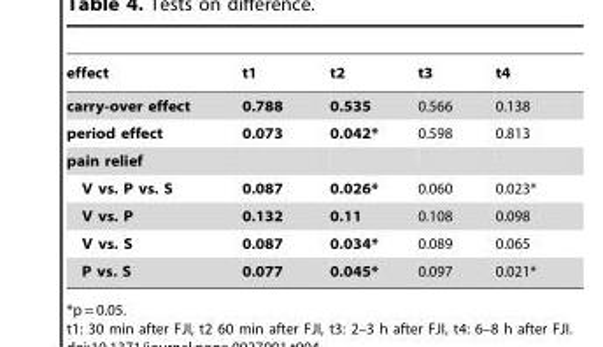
<table><thead><tr><td>effect</td><td>t1</td><td>t2</td><td>t3</td><td>t4</td></tr></thead><tbody><tr><td>carry-over effect</td><td>0.788</td><td>0.535</td><td>0.566</td><td>0.138</td></tr><tr><td>period effect</td><td>0.073</td><td>0.042*</td><td>0.598</td><td>0.813</td></tr><tr><td colspan="5">pain relief</td></tr><tr><td>V vs. P vs. S</td><td>0.087</td><td>0.026*</td><td>0.060</td><td>0.023*</td></tr><tr><td>V vs. P</td><td>0.132</td><td>0.11</td><td>0.108</td><td>0.098</td></tr><tr><td>V vs. S</td><td>0.087</td><td>0.034*</td><td>0.089</td><td>0.065</td></tr><tr><td>P vs. S</td><td>0.077</td><td>0.045*</td><td>0.097</td><td>0.021*</td></tr></tbody></table>